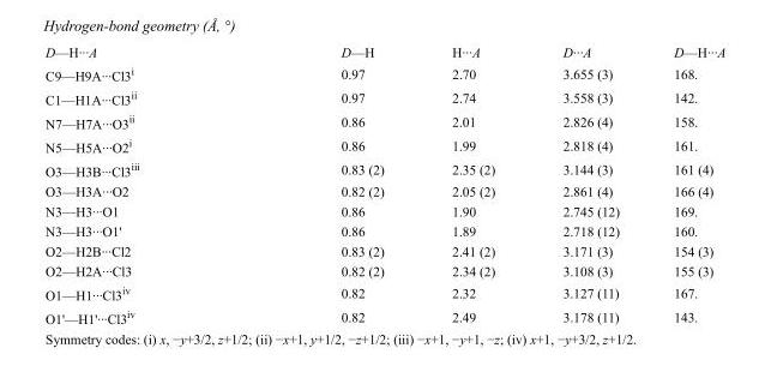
<table><tbody><tr><td>D—H···A</td><td>D—H</td><td>H···A</td><td>D···A</td><td>D—H···A</td></tr><tr><td>C9—H9A···Cl3<sup>i</sup></td><td>0.97</td><td>2.70</td><td>3.655 (3)</td><td>168.</td></tr><tr><td>C1—H1A···Cl3<sup>ii</sup></td><td>0.97</td><td>2.74</td><td>3.558 (3)</td><td>142.</td></tr><tr><td>N7—H7A···O3<sup>ii</sup></td><td>0.86</td><td>2.01</td><td>2.826 (4)</td><td>158.</td></tr><tr><td>N5—H5A···O2<sup>i</sup></td><td>0.86</td><td>1.99</td><td>2.818 (4)</td><td>161.</td></tr><tr><td>O3—H3B···Cl3<sup>iii</sup></td><td>0.83 (2)</td><td>2.35 (2)</td><td>3.144 (3)</td><td>161 (4)</td></tr><tr><td>O3—H3A···O2</td><td>0.82 (2)</td><td>2.05 (2)</td><td>2.861 (4)</td><td>166 (4)</td></tr><tr><td>N3—H3···O1</td><td>0.86</td><td>1.90</td><td>2.745 (12)</td><td>169.</td></tr><tr><td>N3—H3···O1&#x27;</td><td>0.86</td><td>1.89</td><td>2.718 (12)</td><td>160.</td></tr><tr><td>O2—H2B···Cl2</td><td>0.83 (2)</td><td>2.41 (2)</td><td>3.171 (3)</td><td>154 (3)</td></tr><tr><td>O2—H2A···Cl3</td><td>0.82 (2)</td><td>2.34 (2)</td><td>3.108 (3)</td><td>155 (3)</td></tr><tr><td>O1—H1···Cl3<sup>iv</sup></td><td>0.82</td><td>2.32</td><td>3.127 (11)</td><td>167.</td></tr><tr><td>O1&#x27;—H1&#x27;···Cl3<sup>iv</sup></td><td>0.82</td><td>2.49</td><td>3.178 (11)</td><td>143.</td></tr></tbody></table>